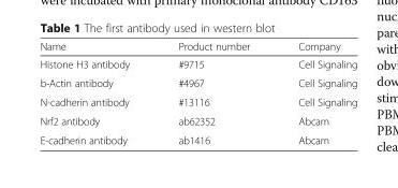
<table><thead><tr><td>Name</td><td>Product number</td><td>Company</td></tr></thead><tbody><tr><td>Histone H3 antibody</td><td>#9715</td><td>Cell Signaling</td></tr><tr><td>b-Actin antibody</td><td>#4967</td><td>Cell Signaling</td></tr><tr><td>N-cadherin antibody</td><td>#13116</td><td>Cell Signaling</td></tr><tr><td>Nrf2 antibody</td><td>ab62352</td><td>Abcam</td></tr><tr><td>E-cadherin antibody</td><td>ab1416</td><td>Abcam</td></tr></tbody></table>